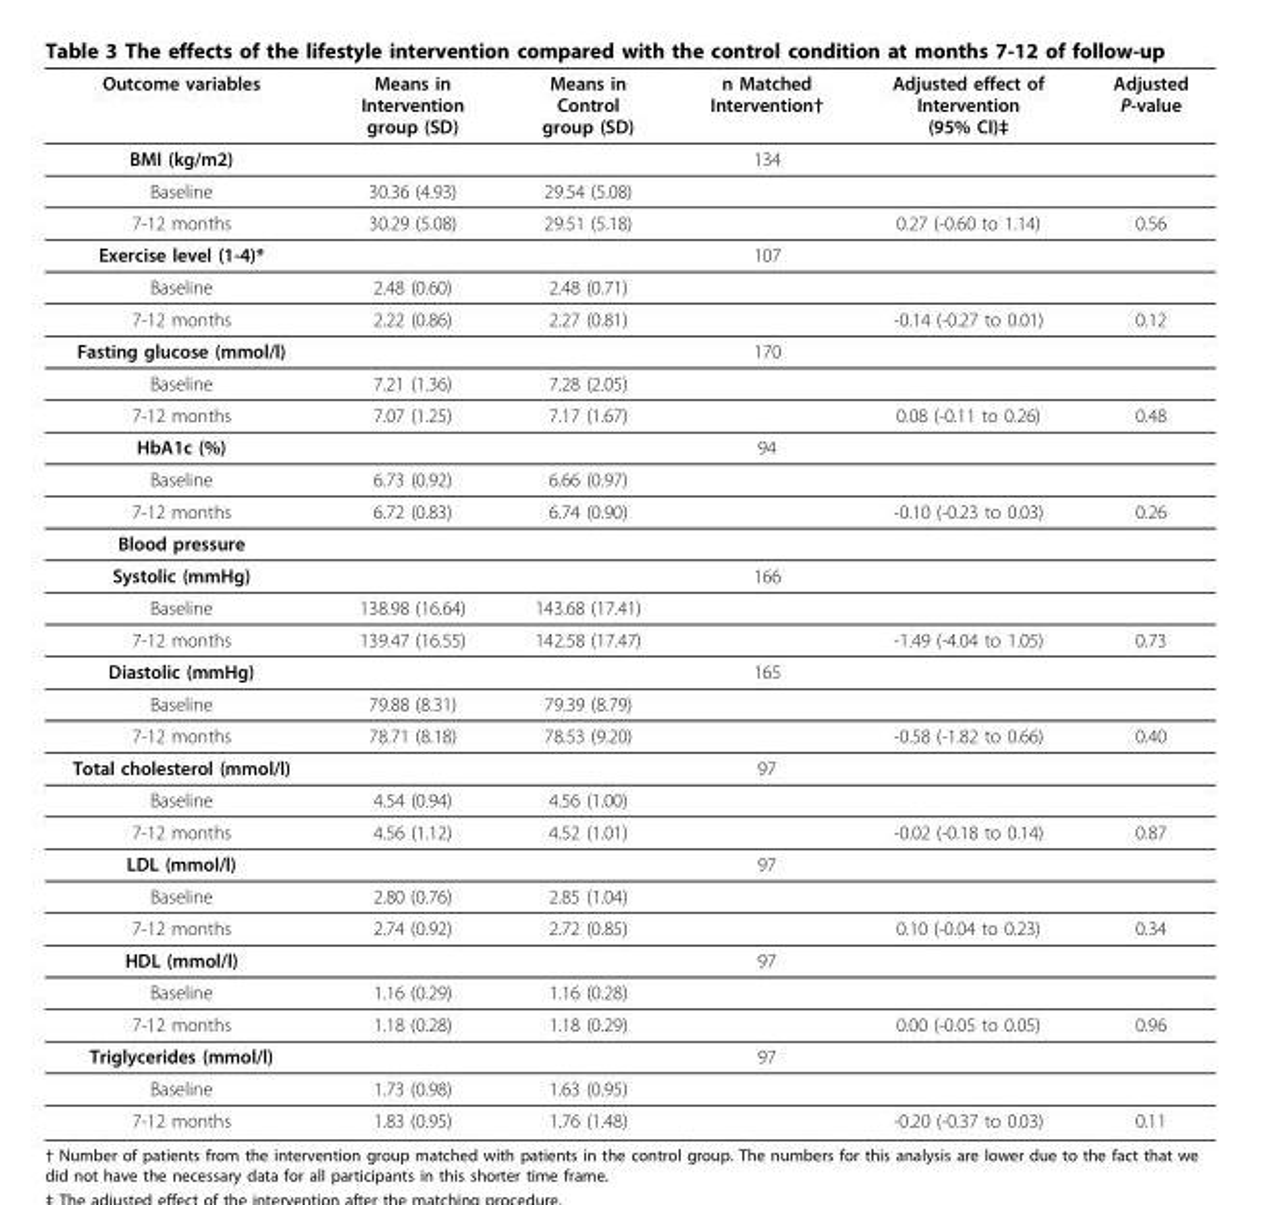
<table><thead><tr><td>Outcome variables</td><td>Means in Intervention group (SD)</td><td>Means in Control group (SD)</td><td>n Matched Intervention†</td><td>Adjusted effect of Intervention (95% CI)‡</td><td>Adjusted P-value</td></tr></thead><tbody><tr><td>BMI (kg/m2)</td><td></td><td></td><td>134</td><td></td><td></td></tr><tr><td>Baseline</td><td>30.36 (4.93)</td><td>29.54 (5.08)</td><td></td><td></td><td></td></tr><tr><td>7-12 months</td><td>30.29 (5.08)</td><td>29.51 (5.18)</td><td></td><td>0.27 (-0.60 to 1.14)</td><td>0.56</td></tr><tr><td>Exercise level (1-4)*</td><td></td><td></td><td>107</td><td></td><td></td></tr><tr><td>Baseline</td><td>2.48 (0.60)</td><td>2.48 (0.71)</td><td></td><td></td><td></td></tr><tr><td>7-12 months</td><td>2.22 (0.86)</td><td>2.27 (0.81)</td><td></td><td>-0.14 (-0.27 to 0.01)</td><td>0.12</td></tr><tr><td>Fasting glucose (mmol/l)</td><td></td><td></td><td>170</td><td></td><td></td></tr><tr><td>Baseline</td><td>7.21 (1.36)</td><td>7.28 (2.05)</td><td></td><td></td><td></td></tr><tr><td>7-12 months</td><td>7.07 (1.25)</td><td>7.17 (1.67)</td><td></td><td>0.08 (-0.11 to 0.26)</td><td>0.48</td></tr><tr><td>HbA1c (%)</td><td></td><td></td><td>94</td><td></td><td></td></tr><tr><td>Baseline</td><td>6.73 (0.92)</td><td>6.66 (0.97)</td><td></td><td></td><td></td></tr><tr><td>7-12 months</td><td>6.72 (0.83)</td><td>6.74 (0.90)</td><td></td><td>-0.10 (-0.23 to 0.03)</td><td>0.26</td></tr><tr><td colspan="6">Blood pressure</td></tr><tr><td>Systolic (mmHg)</td><td></td><td></td><td>166</td><td></td><td></td></tr><tr><td>Baseline</td><td>138.98 (16.64)</td><td>143.68 (17.41)</td><td></td><td></td><td></td></tr><tr><td>7-12 months</td><td>139.47 (16.55)</td><td>142.58 (17.47)</td><td></td><td>-1.49 (-4.04 to 1.05)</td><td>0.73</td></tr><tr><td>Diastolic (mmHg)</td><td></td><td></td><td>165</td><td></td><td></td></tr><tr><td>Baseline</td><td>79.88 (8.31)</td><td>79.39 (8.79)</td><td></td><td></td><td></td></tr><tr><td>7-12 months</td><td>78.71 (8.18)</td><td>78.53 (9.20)</td><td></td><td>-0.58 (-1.82 to 0.66)</td><td>0.40</td></tr><tr><td>Total cholesterol (mmol/l)</td><td></td><td></td><td>97</td><td></td><td></td></tr><tr><td>Baseline</td><td>4.54 (0.94)</td><td>4.56 (1.00)</td><td></td><td></td><td></td></tr><tr><td>7-12 months</td><td>4.56 (1.12)</td><td>4.52 (1.01)</td><td></td><td>-0.02 (-0.18 to 0.14)</td><td>0.87</td></tr><tr><td>LDL (mmol/l)</td><td></td><td></td><td>97</td><td></td><td></td></tr><tr><td>Baseline</td><td>2.80 (0.76)</td><td>2.85 (1.04)</td><td></td><td></td><td></td></tr><tr><td>7-12 months</td><td>2.74 (0.92)</td><td>2.72 (0.85)</td><td></td><td>0.10 (-0.04 to 0.23)</td><td>0.34</td></tr><tr><td>HDL (mmol/l)</td><td></td><td></td><td>97</td><td></td><td></td></tr><tr><td>Baseline</td><td>1.16 (0.29)</td><td>1.16 (0.28)</td><td></td><td></td><td></td></tr><tr><td>7-12 months</td><td>1.18 (0.28)</td><td>1.18 (0.29)</td><td></td><td>0.00 (-0.05 to 0.05)</td><td>0.96</td></tr><tr><td>Triglycerides (mmol/l)</td><td></td><td></td><td>97</td><td></td><td></td></tr><tr><td>Baseline</td><td>1.73 (0.98)</td><td>1.63 (0.95)</td><td></td><td></td><td></td></tr><tr><td>7-12 months</td><td>1.83 (0.95)</td><td>1.76 (1.48)</td><td></td><td>-0.20 (-0.37 to 0.03)</td><td>0.11</td></tr></tbody></table>